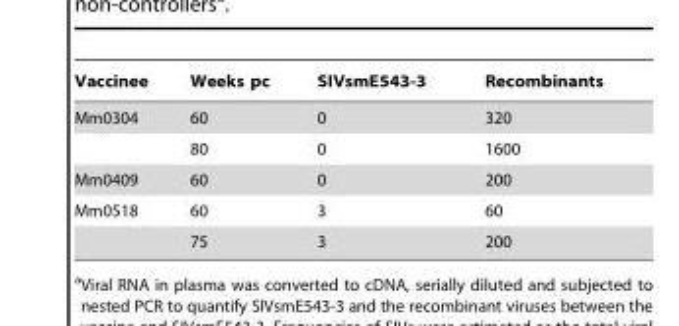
<table><thead><tr><td>Vaccinee</td><td>Weeks pc</td><td>SIVsmE543-3</td><td>Recombinants</td></tr></thead><tbody><tr><td rowspan="2">Mm0304</td><td>60</td><td>0</td><td>320</td></tr><tr><td>80</td><td>0</td><td>1600</td></tr><tr><td>Mm0409</td><td>60</td><td>0</td><td>200</td></tr><tr><td rowspan="2">Mm0518</td><td>60</td><td>3</td><td>60</td></tr><tr><td>75</td><td>3</td><td>200</td></tr></tbody></table>